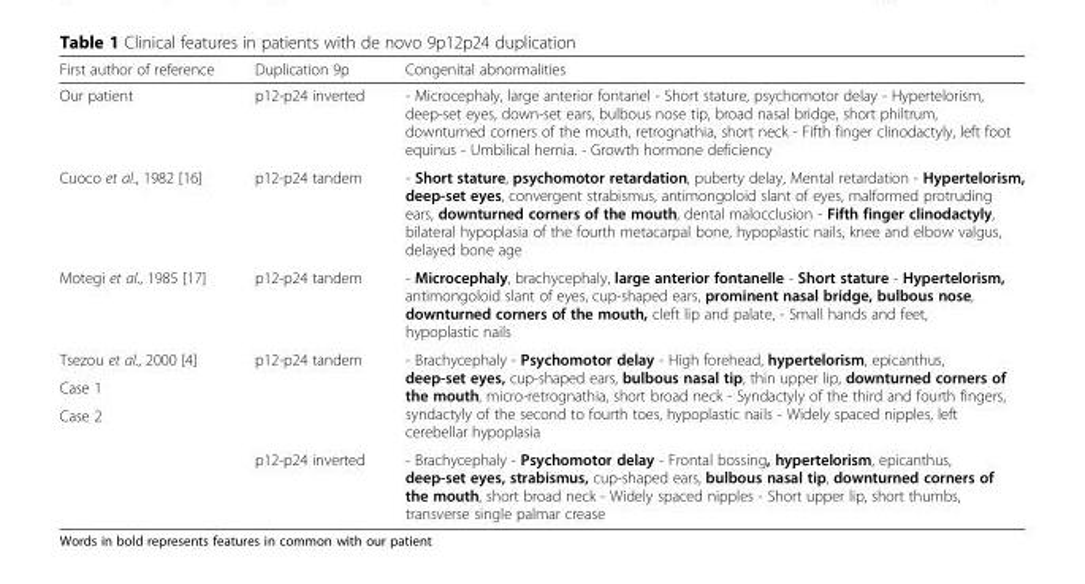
<table><thead><tr><td>First author of reference</td><td>Duplication 9p</td><td>Congenital abnormalities</td></tr></thead><tbody><tr><td>Our patient</td><td>p12-p24 inverted</td><td>- Microcephaly, large anterior fontanel - Short stature, psychomotor delay - Hypertelorism, deep-set eyes, down-set ears, bulbous nose tip, broad nasal bridge, short philtrum, downturned corners of the mouth, retrognathia, short neck - Fifth finger clinodactyly, left foot equinus - Umbilical hernia. - Growth hormone deficiency</td></tr><tr><td>Cuoco et al., 1982 [16]</td><td>p12-p24 tandem</td><td>- Short stature, psychomotor retardation, puberty delay, Mental retardation - Hypertelorism, deep-set eyes, convergent strabismus, antimongoloid slant of eyes, malformed protruding ears, downturned corners of the mouth, dental malocclusion - Fifth finger clinodactyly, bilateral hypoplasia of the fourth metacarpal bone, hypoplastic nails, knee and elbow valgus, delayed bone age</td></tr><tr><td>Motegi et al., 1985 [17]</td><td>p12-p24 tandem</td><td>- Microcephaly, brachycephaly, large anterior fontanelle - Short stature - Hypertelorism, antimongoloid slant of eyes, cup-shaped ears, prominent nasal bridge, bulbous nose, downturned corners of the mouth, cleft lip and palate, - Small hands and feet, hypoplastic nails</td></tr><tr><td>Tsezou et al., 2000 [4]</td><td rowspan="3">p12-p24 tandem</td><td rowspan="3">- Brachycephaly - Psychomotor delay - High forehead, hypertelorism, epicanthus, deep-set eyes, cup-shaped ears, bulbous nasal tip, thin upper lip, downturned corners of the mouth, micro-retrognathia, short broad neck - Syndactyly of the third and fourth fingers, syndactyly of the second to fourth toes, hypoplastic nails - Widely spaced nipples, left cerebellar hypoplasia</td></tr><tr><td>Case 1</td></tr><tr><td rowspan="2">Case 2</td></tr><tr><td>p12-p24 inverted</td><td>- Brachycephaly - Psychomotor delay - Frontal bossing, hypertelorism, epicanthus, deep-set eyes, strabismus, cup-shaped ears, bulbous nasal tip, downturned corners of the mouth, short broad neck - Widely spaced nipples - Short upper lip, short thumbs, transverse single palmar crease</td></tr></tbody></table>